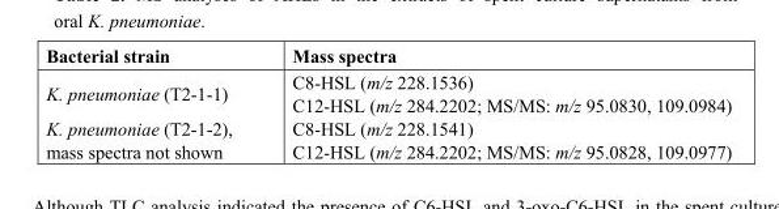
<table><thead><tr><td>Bacterial strain</td><td>Mass spectra</td></tr></thead><tbody><tr><td rowspan="2">K. pneumoniae (T2-1-1)</td><td>C8-HSL (m/z 228.1536)</td></tr><tr><td>C12-HSL (m/z 284.2202; MS/MS: m/z 95.0830, 109.0984)</td></tr><tr><td rowspan="2">K. pneumoniae (T2-1-2), mass spectra not shown</td><td>C8-HSL (m/z 228.1541)</td></tr><tr><td>C12-HSL (m/z 284.2202; MS/MS: m/z 95.0828, 109.0977)</td></tr></tbody></table>